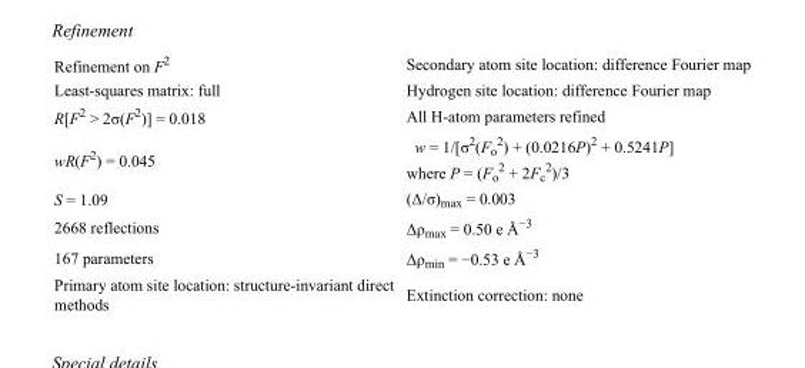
<table><tbody><tr><td>Refinement on F<sup>2</sup></td><td>Secondary atom site location: difference Fourier map</td></tr><tr><td>Least-squares matrix: full</td><td>Hydrogen site location: difference Fourier map</td></tr><tr><td>R[F<sup>2</sup> &gt; 2σ(F<sup>2</sup>)] = 0.018</td><td>All H-atom parameters refined</td></tr><tr><td>wR(F<sup>2</sup>) = 0.045</td><td>w = 1/[σ<sup>2</sup>(F<sub>o</sub> <sup>2</sup>) + (0.0216P)<sup>2</sup> + 0.5241P] where P = (F<sub>o</sub> <sup>2</sup> + 2F<sub>c</sub> <sup>2</sup>)/3</td></tr><tr><td>S = 1.09</td><td>(Δ/σ)<sub>max</sub> = 0.003</td></tr><tr><td>2668 reflections</td><td>Δρ<sub>max</sub> = 0.50 e Å<sup>−3</sup></td></tr><tr><td>167 parameters</td><td>Δρ<sub>min</sub> = −0.53 e Å<sup>−3</sup></td></tr><tr><td>Primary atom site location: structure-invariant direct methods</td><td>Extinction correction: none</td></tr></tbody></table>